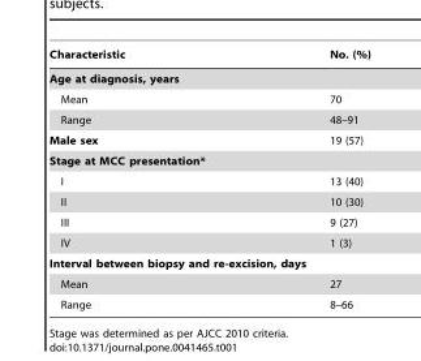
<table><thead><tr><td>Characteristic</td><td>No. (%)</td></tr></thead><tbody><tr><td colspan="2">Age at diagnosis, years</td></tr><tr><td>Mean</td><td>70</td></tr><tr><td>Range</td><td>48–91</td></tr><tr><td>Male sex</td><td>19 (57)</td></tr><tr><td colspan="2">Stage at MCC presentation*</td></tr><tr><td>I</td><td>13 (40)</td></tr><tr><td>II</td><td>10 (30)</td></tr><tr><td>III</td><td>9 (27)</td></tr><tr><td>IV</td><td>1 (3)</td></tr><tr><td colspan="2">Interval between biopsy and re-excision, days</td></tr><tr><td>Mean</td><td>27</td></tr><tr><td>Range</td><td>8–66</td></tr></tbody></table>